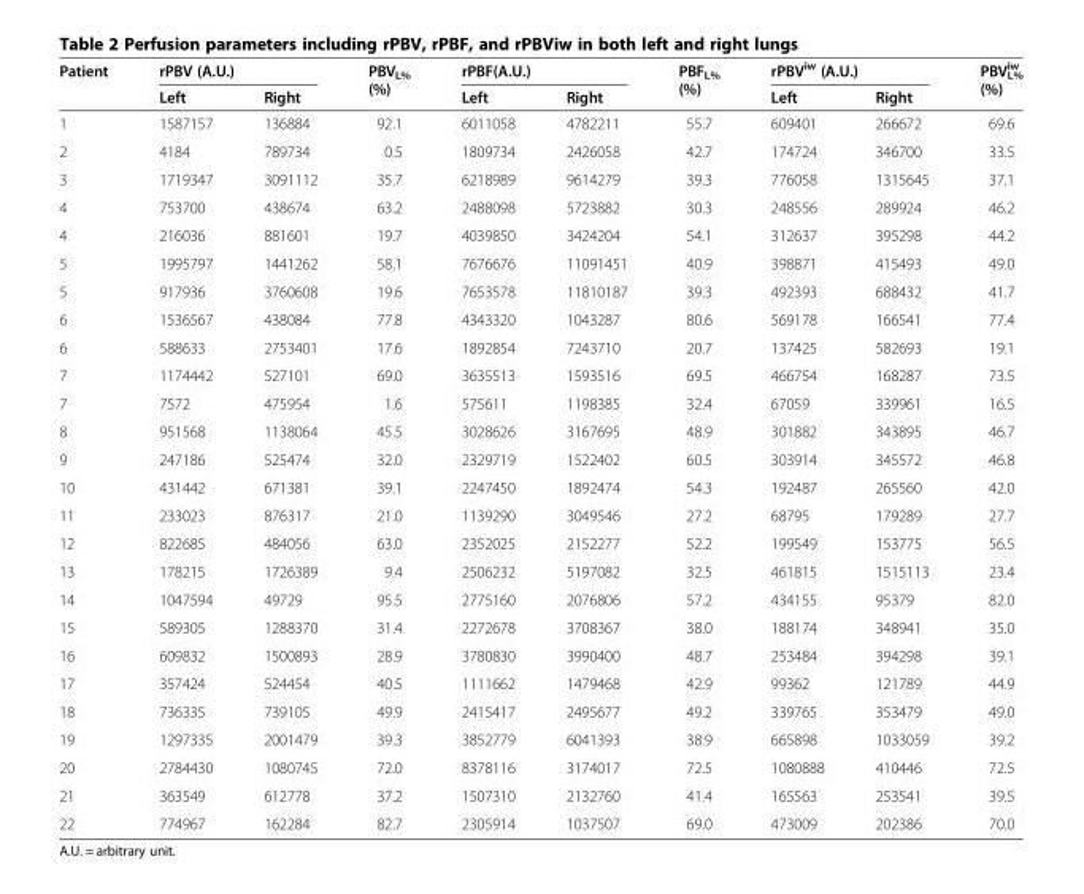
<table><thead><tr><td rowspan="2">Patient</td><td colspan="2">rPBV (A.U.)</td><td rowspan="2">PBV<sub>L%</sub> (%)</td><td colspan="2">rPBF(A.U.)</td><td rowspan="2">PBF<sub>L%</sub> (%)</td><td colspan="2">rPBV<sup>iw</sup> (A.U.)</td><td rowspan="2">PBV<sup>iw</sup> <sub>L%</sub> (%)</td></tr><tr><td>Left</td><td>Right</td><td>Left</td><td>Right</td><td>Left</td><td>Right</td></tr></thead><tbody><tr><td>1</td><td>1587157</td><td>136884</td><td>92.1</td><td>6011058</td><td>4782211</td><td>55.7</td><td>609401</td><td>266672</td><td>69.6</td></tr><tr><td>2</td><td>4184</td><td>789734</td><td>0.5</td><td>1809734</td><td>2426058</td><td>42.7</td><td>174724</td><td>346700</td><td>33.5</td></tr><tr><td>3</td><td>1719347</td><td>3091112</td><td>35.7</td><td>6218989</td><td>9614279</td><td>39.3</td><td>776058</td><td>1315645</td><td>37.1</td></tr><tr><td>4</td><td>753700</td><td>438674</td><td>63.2</td><td>2488098</td><td>5723882</td><td>30.3</td><td>248556</td><td>289924</td><td>46.2</td></tr><tr><td>4</td><td>216036</td><td>881601</td><td>19.7</td><td>4039850</td><td>3424204</td><td>54.1</td><td>312637</td><td>395298</td><td>44.2</td></tr><tr><td>5</td><td>1995797</td><td>1441262</td><td>58.1</td><td>7676676</td><td>11091451</td><td>40.9</td><td>398871</td><td>415493</td><td>49.0</td></tr><tr><td>5</td><td>917936</td><td>3760608</td><td>19.6</td><td>7653578</td><td>11810187</td><td>39.3</td><td>492393</td><td>688432</td><td>41.7</td></tr><tr><td>6</td><td>1536567</td><td>438084</td><td>77.8</td><td>4343320</td><td>1043287</td><td>80.6</td><td>569178</td><td>166541</td><td>77.4</td></tr><tr><td>6</td><td>588633</td><td>2753401</td><td>17.6</td><td>1892854</td><td>7243710</td><td>20.7</td><td>137425</td><td>582693</td><td>19.1</td></tr><tr><td>7</td><td>1174442</td><td>527101</td><td>69.0</td><td>3635513</td><td>1593516</td><td>69.5</td><td>466754</td><td>168287</td><td>73.5</td></tr><tr><td>7</td><td>7572</td><td>475954</td><td>1.6</td><td>575611</td><td>1198385</td><td>32.4</td><td>67059</td><td>339961</td><td>16.5</td></tr><tr><td>8</td><td>951568</td><td>1138064</td><td>45.5</td><td>3028626</td><td>3167695</td><td>48.9</td><td>301882</td><td>343895</td><td>46.7</td></tr><tr><td>9</td><td>247186</td><td>525474</td><td>32.0</td><td>2329719</td><td>1522402</td><td>60.5</td><td>303914</td><td>345572</td><td>46.8</td></tr><tr><td>10</td><td>431442</td><td>671381</td><td>39.1</td><td>2247450</td><td>1892474</td><td>54.3</td><td>192487</td><td>265560</td><td>42.0</td></tr><tr><td>11</td><td>233023</td><td>876317</td><td>21.0</td><td>1139290</td><td>3049546</td><td>27.2</td><td>68795</td><td>179289</td><td>27.7</td></tr><tr><td>12</td><td>822685</td><td>484056</td><td>63.0</td><td>2352025</td><td>2152277</td><td>52.2</td><td>199549</td><td>153775</td><td>56.5</td></tr><tr><td>13</td><td>178215</td><td>1726389</td><td>9.4</td><td>2506232</td><td>5197082</td><td>32.5</td><td>461815</td><td>1515113</td><td>23.4</td></tr><tr><td>14</td><td>1047594</td><td>49729</td><td>95.5</td><td>2775160</td><td>2076806</td><td>57.2</td><td>434155</td><td>95379</td><td>82.0</td></tr><tr><td>15</td><td>589305</td><td>1288370</td><td>31.4</td><td>2272678</td><td>3708367</td><td>38.0</td><td>188174</td><td>348941</td><td>35.0</td></tr><tr><td>16</td><td>609832</td><td>1500893</td><td>28.9</td><td>3780830</td><td>3990400</td><td>48.7</td><td>253484</td><td>394298</td><td>39.1</td></tr><tr><td>17</td><td>357424</td><td>524454</td><td>40.5</td><td>1111662</td><td>1479468</td><td>42.9</td><td>99362</td><td>121789</td><td>44.9</td></tr><tr><td>18</td><td>736335</td><td>739105</td><td>49.9</td><td>2415417</td><td>2495677</td><td>49.2</td><td>339765</td><td>353479</td><td>49.0</td></tr><tr><td>19</td><td>1297335</td><td>2001479</td><td>39.3</td><td>3852779</td><td>6041393</td><td>38.9</td><td>665898</td><td>1033059</td><td>39.2</td></tr><tr><td>20</td><td>2784430</td><td>1080745</td><td>72.0</td><td>8378116</td><td>3174017</td><td>72.5</td><td>1080888</td><td>410446</td><td>72.5</td></tr><tr><td>21</td><td>363549</td><td>612778</td><td>37.2</td><td>1507310</td><td>2132760</td><td>41.4</td><td>165563</td><td>253541</td><td>39.5</td></tr><tr><td>22</td><td>774967</td><td>162284</td><td>82.7</td><td>2305914</td><td>1037507</td><td>69.0</td><td>473009</td><td>202386</td><td>70.0</td></tr></tbody></table>